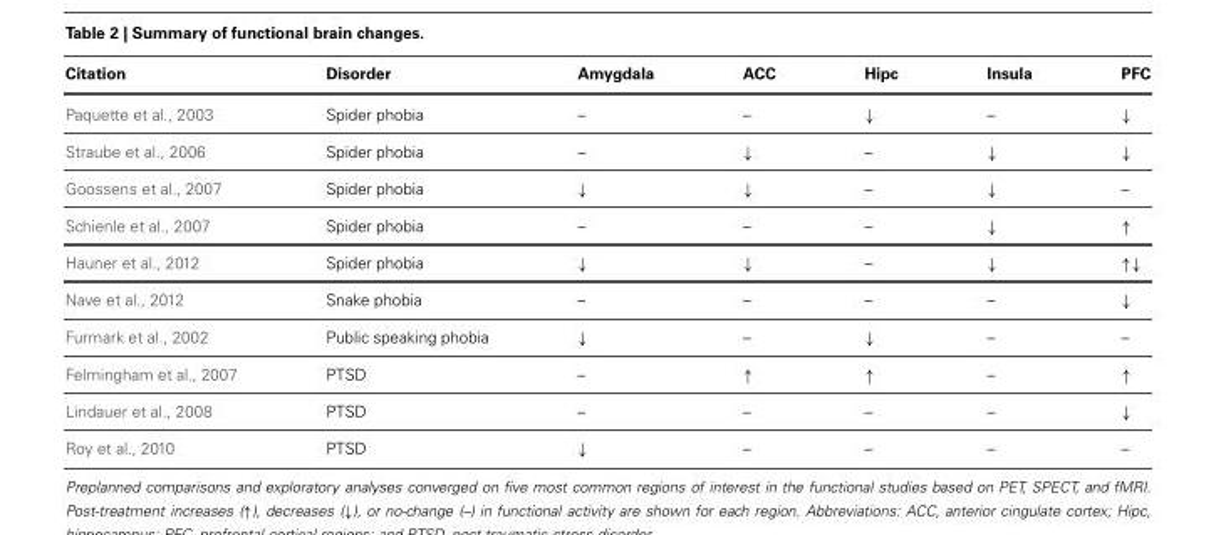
<table><thead><tr><td>Citation</td><td>Disorder</td><td>Amygdala</td><td>ACC</td><td>Hipc</td><td>Insula</td><td>PFC</td></tr></thead><tbody><tr><td>Paquette et al., 2003</td><td>Spider phobia</td><td>–</td><td>–</td><td>↓</td><td>–</td><td>↓</td></tr><tr><td>Straube et al., 2006</td><td>Spider phobia</td><td>–</td><td>↓</td><td>–</td><td>↓</td><td>↓</td></tr><tr><td>Goossens et al., 2007</td><td>Spider phobia</td><td>↓</td><td>↓</td><td>–</td><td>↓</td><td>–</td></tr><tr><td>Schienle et al., 2007</td><td>Spider phobia</td><td>–</td><td>–</td><td>–</td><td>↓</td><td>↑</td></tr><tr><td>Hauner et al., 2012</td><td>Spider phobia</td><td>↓</td><td>↓</td><td>–</td><td>↓</td><td>↑↓</td></tr><tr><td>Nave et al., 2012</td><td>Snake phobia</td><td>–</td><td>–</td><td>–</td><td>–</td><td>↓</td></tr><tr><td>Furmark et al., 2002</td><td>Public speaking phobia</td><td>↓</td><td>–</td><td>↓</td><td>–</td><td>–</td></tr><tr><td>Felmingham et al., 2007</td><td>PTSD</td><td>–</td><td>↑</td><td>↑</td><td>–</td><td>↑</td></tr><tr><td>Lindauer et al., 2008</td><td>PTSD</td><td>–</td><td>–</td><td>–</td><td>–</td><td>↓</td></tr><tr><td>Roy et al., 2010</td><td>PTSD</td><td>↓</td><td>–</td><td>–</td><td>–</td><td>–</td></tr></tbody></table>